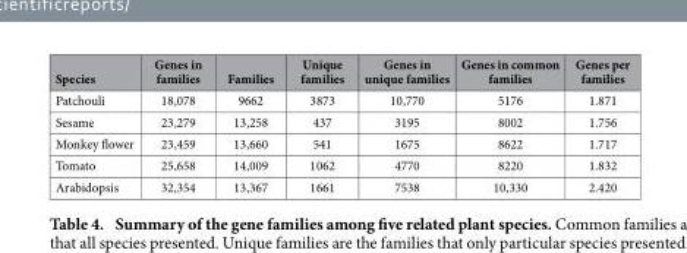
<table><thead><tr><td>Species</td><td>Genes in families</td><td>Families</td><td>Unique families</td><td>Genes in unique families</td><td>Genes in common families</td><td>Genes per families</td></tr></thead><tbody><tr><td>Patchouli</td><td>18,078</td><td>9662</td><td>3873</td><td>10,770</td><td>5176</td><td>1.871</td></tr><tr><td>Sesame</td><td>23,279</td><td>13,258</td><td>437</td><td>3195</td><td>8002</td><td>1.756</td></tr><tr><td>Monkey flower</td><td>23,459</td><td>13,660</td><td>541</td><td>1675</td><td>8622</td><td>1.717</td></tr><tr><td>Tomato</td><td>25,658</td><td>14,009</td><td>1062</td><td>4770</td><td>8220</td><td>1.832</td></tr><tr><td>Arabidopsis</td><td>32,354</td><td>13,367</td><td>1661</td><td>7538</td><td>10,330</td><td>2.420</td></tr></tbody></table>